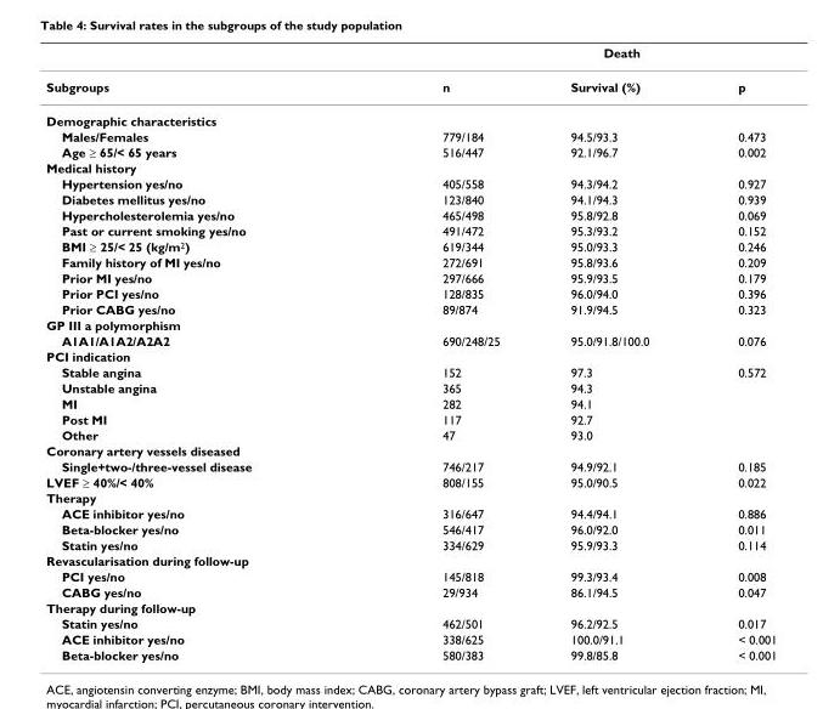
<table><thead><tr><td rowspan="2">Subgroups</td><td colspan="3">Death</td></tr><tr><td>n</td><td>Survival (%)</td><td>p</td></tr></thead><tbody><tr><td colspan="4">Demographic characteristics</td></tr><tr><td>Males/Females</td><td>779/184</td><td>94.5/93.3</td><td>0.473</td></tr><tr><td>Age ≥ 65/&lt; 65 years</td><td>516/447</td><td>92.1/96.7</td><td>0.002</td></tr><tr><td colspan="4">Medical history</td></tr><tr><td>Hypertension yes/no</td><td>405/558</td><td>94.3/94.2</td><td>0.927</td></tr><tr><td>Diabetes mellitus yes/no</td><td>123/840</td><td>94.1/94.3</td><td>0.939</td></tr><tr><td>Hypercholesterolemia yes/no</td><td>465/498</td><td>95.8/92.8</td><td>0.069</td></tr><tr><td>Past or current smoking yes/no</td><td>491/472</td><td>95.3/93.2</td><td>0.152</td></tr><tr><td>BMI ≥ 25/&lt; 25 (kg/m<sup>2</sup>)</td><td>619/344</td><td>95.0/93.3</td><td>0.246</td></tr><tr><td>Family history of MI yes/no</td><td>272/691</td><td>95.8/93.6</td><td>0.209</td></tr><tr><td>Prior MI yes/no</td><td>297/666</td><td>95.9/93.5</td><td>0.179</td></tr><tr><td>Prior PCI yes/no</td><td>128/835</td><td>96.0/94.0</td><td>0.396</td></tr><tr><td>Prior CABG yes/no</td><td>89/874</td><td>91.9/94.5</td><td>0.323</td></tr><tr><td colspan="4">GP III a polymorphism</td></tr><tr><td>A1A1/A1A2/A2A2</td><td>690/248/25</td><td>95.0/91.8/100.0</td><td>0.076</td></tr><tr><td colspan="4">PCI indication</td></tr><tr><td>Stable angina</td><td>152</td><td>97.3</td><td>0.572</td></tr><tr><td>Unstable angina</td><td>365</td><td>94.3</td><td></td></tr><tr><td>MI</td><td>282</td><td>94.1</td><td></td></tr><tr><td>Post MI</td><td>117</td><td>92.7</td><td></td></tr><tr><td>Other</td><td>47</td><td>93.0</td><td></td></tr><tr><td colspan="4">Coronary artery vessels diseased</td></tr><tr><td>Single+two-/three-vessel disease</td><td>746/217</td><td>94.9/92.1</td><td>0.185</td></tr><tr><td>LVEF ≥ 40%/&lt; 40%</td><td>808/155</td><td>95.0/90.5</td><td>0.022</td></tr><tr><td colspan="4">Therapy</td></tr><tr><td>ACE inhibitor yes/no</td><td>316/647</td><td>94.4/94.1</td><td>0.886</td></tr><tr><td>Beta-blocker yes/no</td><td>546/417</td><td>96.0/92.0</td><td>0.011</td></tr><tr><td>Statin yes/no</td><td>334/629</td><td>95.9/93.3</td><td>0.114</td></tr><tr><td colspan="4">Revascularisation during follow-up</td></tr><tr><td>PCI yes/no</td><td>145/818</td><td>99.3/93.4</td><td>0.008</td></tr><tr><td>CABG yes/no</td><td>29/934</td><td>86.1/94.5</td><td>0.047</td></tr><tr><td colspan="4">Therapy during follow-up</td></tr><tr><td>Statin yes/no</td><td>462/501</td><td>96.2/92.5</td><td>0.017</td></tr><tr><td>ACE inhibitor yes/no</td><td>338/625</td><td>100.0/91.1</td><td>&lt; 0.001</td></tr><tr><td>Beta-blocker yes/no</td><td>580/383</td><td>99.8/85.8</td><td>&lt; 0.001</td></tr></tbody></table>